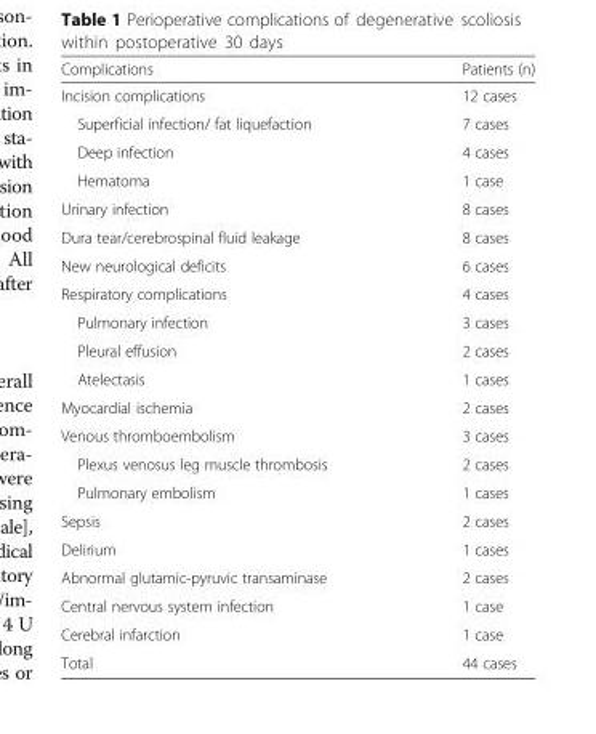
<table><thead><tr><td>Complications</td><td>Patients (n)</td></tr></thead><tbody><tr><td>Incision complications</td><td>12 cases</td></tr><tr><td>Superficial infection/ fat liquefaction</td><td>7 cases</td></tr><tr><td>Deep infection</td><td>4 cases</td></tr><tr><td>Hematoma</td><td>1 case</td></tr><tr><td>Urinary infection</td><td>8 cases</td></tr><tr><td>Dura tear/cerebrospinal fluid leakage</td><td>8 cases</td></tr><tr><td>New neurological deficits</td><td>6 cases</td></tr><tr><td>Respiratory complications</td><td>4 cases</td></tr><tr><td>Pulmonary infection</td><td>3 cases</td></tr><tr><td>Pleural effusion</td><td>2 cases</td></tr><tr><td>Atelectasis</td><td>1 cases</td></tr><tr><td>Myocardial ischemia</td><td>2 cases</td></tr><tr><td>Venous thromboembolism</td><td>3 cases</td></tr><tr><td>Plexus venosus leg muscle thrombosis</td><td>2 cases</td></tr><tr><td>Pulmonary embolism</td><td>1 cases</td></tr><tr><td>Sepsis</td><td>2 cases</td></tr><tr><td>Delirium</td><td>1 cases</td></tr><tr><td>Abnormal glutamic-pyruvic transaminase</td><td>2 cases</td></tr><tr><td>Central nervous system infection</td><td>1 case</td></tr><tr><td>Cerebral infarction</td><td>1 case</td></tr><tr><td>Total</td><td>44 cases</td></tr></tbody></table>